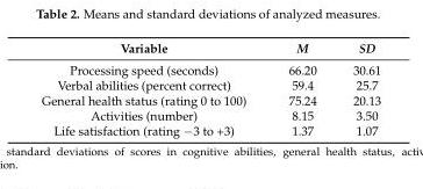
<table><thead><tr><td>Variable</td><td>M</td><td>SD</td></tr></thead><tbody><tr><td>Processing speed (seconds)</td><td>66.20</td><td>30.61</td></tr><tr><td>Verbal abilities (percent correct)</td><td>59.4</td><td>25.7</td></tr><tr><td>General health status (rating 0 to 100)</td><td>75.24</td><td>20.13</td></tr><tr><td>Activities (number)</td><td>8.15</td><td>3.50</td></tr><tr><td>Life satisfaction (rating −3 to +3)</td><td>1.37</td><td>1.07</td></tr></tbody></table>